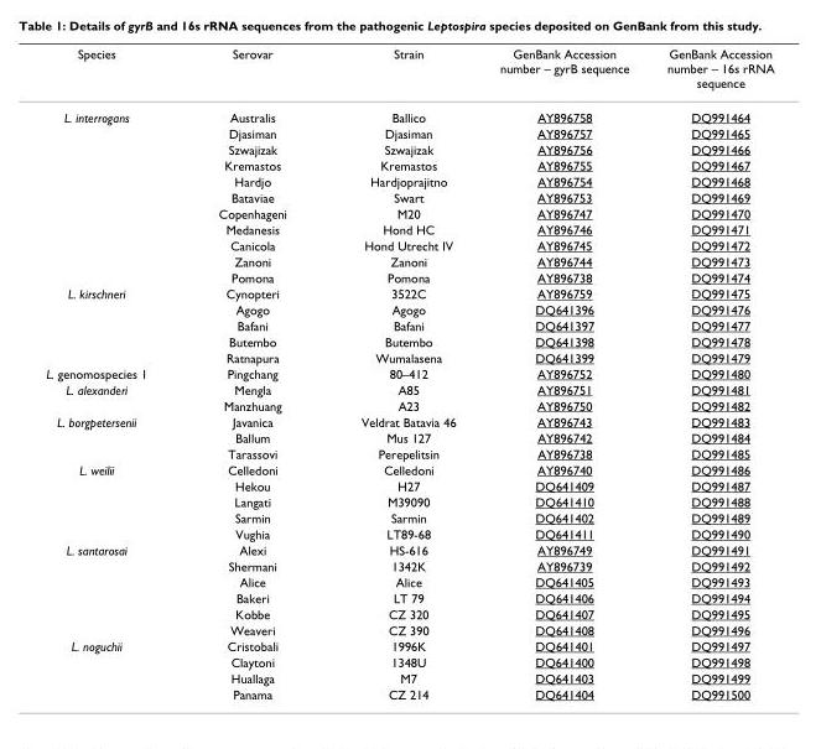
<table><thead><tr><td>Species</td><td>Serovar</td><td>Strain</td><td>GenBank Accession number – gyrB sequence</td><td>GenBank Accession number – 16s rRNA sequence</td></tr></thead><tbody><tr><td rowspan="11">L. interrogans</td><td>Australis</td><td>Ballico</td><td>AY896758</td><td>DQ991464</td></tr><tr><td>Djasiman</td><td>Djasiman</td><td>AY896757</td><td>DQ991465</td></tr><tr><td>Szwajizak</td><td>Szwajizak</td><td>AY896756</td><td>DQ991466</td></tr><tr><td>Kremastos</td><td>Kremastos</td><td>AY896755</td><td>DQ991467</td></tr><tr><td>Hardjo</td><td>Hardjoprajitno</td><td>AY896754</td><td>DQ991468</td></tr><tr><td>Bataviae</td><td>Swart</td><td>AY896753</td><td>DQ991469</td></tr><tr><td>Copenhageni</td><td>M20</td><td>AY896747</td><td>DQ991470</td></tr><tr><td>Medanesis</td><td>Hond HC</td><td>AY896746</td><td>DQ991471</td></tr><tr><td>Canicola</td><td>Hond Utrecht IV</td><td>AY896745</td><td>DQ991472</td></tr><tr><td>Zanoni</td><td>Zanoni</td><td>AY896744</td><td>DQ991473</td></tr><tr><td>Pomona</td><td>Pomona</td><td>AY896738</td><td>DQ991474</td></tr><tr><td rowspan="5">L. kirschneri</td><td>Cynopteri</td><td>3522C</td><td>AY896759</td><td>DQ991475</td></tr><tr><td>Agogo</td><td>Agogo</td><td>DQ641396</td><td>DQ991476</td></tr><tr><td>Bafani</td><td>Bafani</td><td>DQ641397</td><td>DQ991477</td></tr><tr><td>Butembo</td><td>Butembo</td><td>DQ641398</td><td>DQ991478</td></tr><tr><td>Ratnapura</td><td>Wumalasena</td><td>DQ641399</td><td>DQ991479</td></tr><tr><td>L. genomospecies 1</td><td>Pingchang</td><td>80–412</td><td>AY896752</td><td>DQ991480</td></tr><tr><td rowspan="2">L. alexanderi</td><td>Mengla</td><td>A85</td><td>AY896751</td><td>DQ991481</td></tr><tr><td>Manzhuang</td><td>A23</td><td>AY896750</td><td>DQ991482</td></tr><tr><td rowspan="3">L. borgpetersenii</td><td>Javanica</td><td>Veldrat Batavia 46</td><td>AY896743</td><td>DQ991483</td></tr><tr><td>Ballum</td><td>Mus 127</td><td>AY896742</td><td>DQ991484</td></tr><tr><td>Tarassovi</td><td>Perepelitsin</td><td>AY896738</td><td>DQ991485</td></tr><tr><td rowspan="5">L. weilii</td><td>Celledoni</td><td>Celledoni</td><td>AY896740</td><td>DQ991486</td></tr><tr><td>Hekou</td><td>H27</td><td>DQ641409</td><td>DQ991487</td></tr><tr><td>Langati</td><td>M39090</td><td>DQ641410</td><td>DQ991488</td></tr><tr><td>Sarmin</td><td>Sarmin</td><td>DQ641402</td><td>DQ991489</td></tr><tr><td>Vughia</td><td>LT89-68</td><td>DQ641411</td><td>DQ991490</td></tr><tr><td rowspan="6">L. santarosai</td><td>Alexi</td><td>HS-616</td><td>AY896749</td><td>DQ991491</td></tr><tr><td>Shermani</td><td>1342K</td><td>AY896739</td><td>DQ991492</td></tr><tr><td>Alice</td><td>Alice</td><td>DQ641405</td><td>DQ991493</td></tr><tr><td>Bakeri</td><td>LT 79</td><td>DQ641406</td><td>DQ991494</td></tr><tr><td>Kobbe</td><td>CZ 320</td><td>DQ641407</td><td>DQ991495</td></tr><tr><td>Weaveri</td><td>CZ 390</td><td>DQ641408</td><td>DQ991496</td></tr><tr><td rowspan="4">L. noguchii</td><td>Cristobali</td><td>1996K</td><td>DQ641401</td><td>DQ991497</td></tr><tr><td>Claytoni</td><td>1348U</td><td>DQ641400</td><td>DQ991498</td></tr><tr><td>Huallaga</td><td>M7</td><td>DQ641403</td><td>DQ991499</td></tr><tr><td>Panama</td><td>CZ 214</td><td>DQ641404</td><td>DQ991500</td></tr></tbody></table>